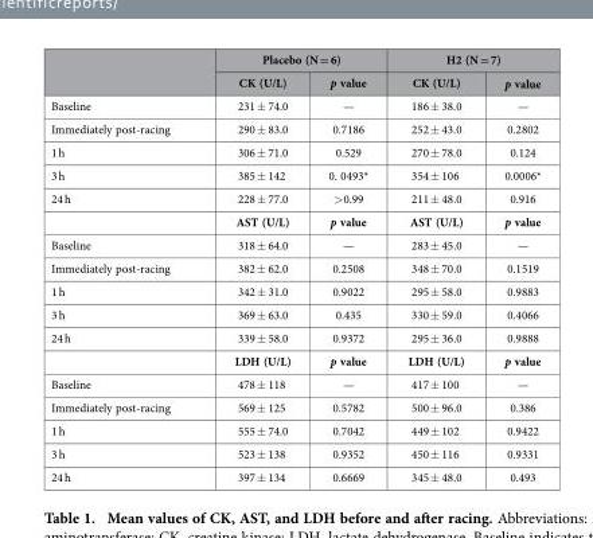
<table><thead><tr><td rowspan="2"></td><td colspan="2">Placebo (N = 6)</td><td colspan="2">H2 (N = 7)</td></tr><tr><td>CK (U/L)</td><td>p value</td><td>CK (U/L)</td><td>p value</td></tr></thead><tbody><tr><td>Baseline</td><td>231 ± 74.0</td><td>—</td><td>186 ± 38.0</td><td>—</td></tr><tr><td>Immediately post-racing</td><td>290 ± 83.0</td><td>0.7186</td><td>252 ± 43.0</td><td>0.2802</td></tr><tr><td>1 h</td><td>306 ± 71.0</td><td>0.529</td><td>270 ± 78.0</td><td>0.124</td></tr><tr><td>3 h</td><td>385 ± 142</td><td>0. 0493*</td><td>354 ± 106</td><td>0.0006*</td></tr><tr><td rowspan="2">24 h</td><td>228 ± 77.0</td><td>&gt; 0.99</td><td>211 ± 48.0</td><td>0.916</td></tr><tr><td>AST (U/L)</td><td>p value</td><td>AST (U/L)</td><td>p value</td></tr><tr><td>Baseline</td><td>318 ± 64.0</td><td>—</td><td>283 ± 45.0</td><td>—</td></tr><tr><td>Immediately post-racing</td><td>382 ± 62.0</td><td>0.2508</td><td>348 ± 70.0</td><td>0.1519</td></tr><tr><td>1 h</td><td>342 ± 31.0</td><td>0.9022</td><td>295 ± 58.0</td><td>0.9883</td></tr><tr><td>3 h</td><td>369 ± 63.0</td><td>0.435</td><td>330 ± 59.0</td><td>0.4066</td></tr><tr><td rowspan="2">24 h</td><td>339 ± 58.0</td><td>0.9372</td><td>295 ± 36.0</td><td>0.9888</td></tr><tr><td>LDH (U/L)</td><td>p value</td><td>LDH (U/L)</td><td>p value</td></tr><tr><td>Baseline</td><td>478 ± 118</td><td>—</td><td>417 ± 100</td><td>—</td></tr><tr><td>Immediately post-racing</td><td>569 ± 125</td><td>0.5782</td><td>500 ± 96.0</td><td>0.386</td></tr><tr><td>1 h</td><td>555 ± 74.0</td><td>0.7042</td><td>449 ± 102</td><td>0.9422</td></tr><tr><td>3 h</td><td>523 ± 138</td><td>0.9352</td><td>450 ± 116</td><td>0.9331</td></tr><tr><td>24 h</td><td>397 ± 134</td><td>0.6669</td><td>345 ± 48.0</td><td>0.493</td></tr></tbody></table>